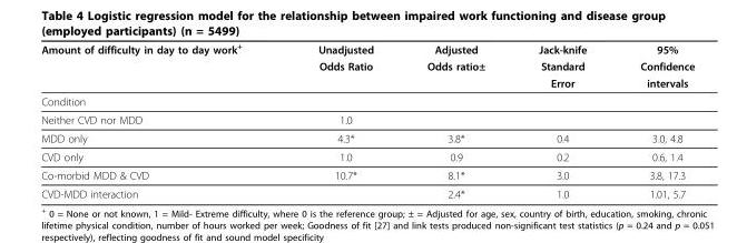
<table><thead><tr><td rowspan="3">Amount of difficulty in day to day work+</td><td rowspan="3">Unadjusted Odds Ratio</td><td rowspan="3">Adjusted Odds ratio±</td><td rowspan="3">Jack-knife Standard Error</td><td rowspan="3">95% Confidence intervals</td></tr><tr></tr><tr></tr></thead><tbody><tr><td colspan="5">Condition</td></tr><tr><td>Neither CVD nor MDD</td><td>1.0</td><td></td><td></td><td></td></tr><tr><td>MDD only</td><td>4.3*</td><td>3.8*</td><td>0.4</td><td>3.0, 4.8</td></tr><tr><td>CVD only</td><td>1.0</td><td>0.9</td><td>0.2</td><td>0.6, 1.4</td></tr><tr><td>Co-morbid MDD &amp; CVD</td><td>10.7*</td><td>8.1*</td><td>3.0</td><td>3.8, 17.3</td></tr><tr><td>CVD-MDD interaction</td><td></td><td>2.4*</td><td>1.0</td><td>1.01, 5.7</td></tr></tbody></table>